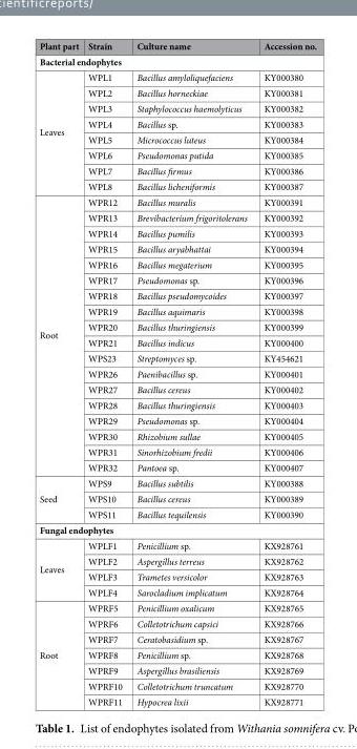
<table><thead><tr><td>Plant part</td><td>Strain</td><td>Culture name</td><td>Accession no.</td></tr></thead><tbody><tr><td colspan="4">Bacterial endophytes</td></tr><tr><td rowspan="8">Leaves</td><td>WPL1</td><td>Bacillus amyloliquefaciens</td><td>KY000380</td></tr><tr><td>WPL2</td><td>Bacillus horneckiae</td><td>KY000381</td></tr><tr><td>WPL3</td><td>Staphylococcus haemolyticus</td><td>KY000382</td></tr><tr><td>WPL4</td><td>Bacillus sp.</td><td>KY000383</td></tr><tr><td>WPL5</td><td>Micrococcus luteus</td><td>KY000384</td></tr><tr><td>WPL6</td><td>Pseudomonas putida</td><td>KY000385</td></tr><tr><td>WPL7</td><td>Bacillus firmus</td><td>KY000386</td></tr><tr><td>WPL8</td><td>Bacillus licheniformis</td><td>KY000387</td></tr><tr><td rowspan="18">Root</td><td>WPR12</td><td>Bacillus muralis</td><td>KY000391</td></tr><tr><td>WPR13</td><td>Brevibacterium frigoritolerans</td><td>KY000392</td></tr><tr><td>WPR14</td><td>Bacillus pumilis</td><td>KY000393</td></tr><tr><td>WPR15</td><td>Bacillus aryabhattai</td><td>KY000394</td></tr><tr><td>WPR16</td><td>Bacillus megaterium</td><td>KY000395</td></tr><tr><td>WPR17</td><td>Pseudomonas sp.</td><td>KY000396</td></tr><tr><td>WPR18</td><td>Bacillus pseudomycoides</td><td>KY000397</td></tr><tr><td>WPR19</td><td>Bacillus aquimaris</td><td>KY000398</td></tr><tr><td>WPR20</td><td>Bacillus thuringiensis</td><td>KY000399</td></tr><tr><td>WPR21</td><td>Bacillus indicus</td><td>KY000400</td></tr><tr><td>WPS23</td><td>Streptomyces sp.</td><td>KY454621</td></tr><tr><td>WPR26</td><td>Paenibacillus sp.</td><td>KY000401</td></tr><tr><td>WPR27</td><td>Bacillus cereus</td><td>KY000402</td></tr><tr><td>WPR28</td><td>Bacillus thuringiensis</td><td>KY000403</td></tr><tr><td>WPR29</td><td>Pseudomonas sp.</td><td>KY000404</td></tr><tr><td>WPR30</td><td>Rhizobium sullae</td><td>KY000405</td></tr><tr><td>WPR31</td><td>Sinorhizobium fredii</td><td>KY000406</td></tr><tr><td>WPR32</td><td>Pantoea sp.</td><td>KY000407</td></tr><tr><td rowspan="3">Seed</td><td>WPS9</td><td>Bacillus subtilis</td><td>KY000388</td></tr><tr><td>WPS10</td><td>Bacillus cereus</td><td>KY000389</td></tr><tr><td>WPS11</td><td>Bacillus tequilensis</td><td>KY000390</td></tr><tr><td colspan="4">Fungal endophytes</td></tr><tr><td rowspan="4">Leaves</td><td>WPLF1</td><td>Penicillium sp.</td><td>KX928761</td></tr><tr><td>WPLF2</td><td>Aspergillus terreus</td><td>KX928762</td></tr><tr><td>WPLF3</td><td>Trametes versicolor</td><td>KX928763</td></tr><tr><td>WPLF4</td><td>Sarocladium implicatum</td><td>KX928764</td></tr><tr><td rowspan="7">Root</td><td>WPRF5</td><td>Penicillium oxalicum</td><td>KX928765</td></tr><tr><td>WPRF6</td><td>Colletotrichum capsici</td><td>KX928766</td></tr><tr><td>WPRF7</td><td>Ceratobasidium sp.</td><td>KX928767</td></tr><tr><td>WPRF8</td><td>Penicillium sp.</td><td>KX928768</td></tr><tr><td>WPRF9</td><td>Aspergillus brasiliensis</td><td>KX928769</td></tr><tr><td>WPRF10</td><td>Colletotrichum truncatum</td><td>KX928770</td></tr><tr><td>WPRF11</td><td>Hypocrea lixii</td><td>KX928771</td></tr></tbody></table>